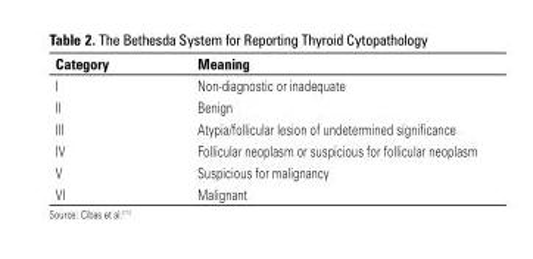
<table><thead><tr><td>Category</td><td>Meaning</td></tr></thead><tbody><tr><td>I</td><td>Non-diagnostic or inadequate</td></tr><tr><td>II</td><td>Benign</td></tr><tr><td>III</td><td>Atypia/follicular lesion of undetermined significance</td></tr><tr><td>IV</td><td>Follicular neoplasm or suspicious for follicular neoplasm</td></tr><tr><td>V</td><td>Suspicious for malignancy</td></tr><tr><td>VI</td><td>Malignant</td></tr></tbody></table>